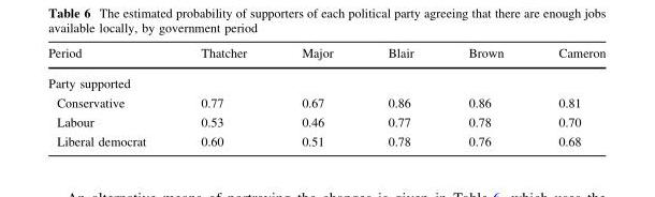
<table><thead><tr><td>Period</td><td>Thatcher</td><td>Major</td><td>Blair</td><td>Brown</td><td>Cameron</td></tr></thead><tbody><tr><td colspan="6">Party supported</td></tr><tr><td>Conservative</td><td>0.77</td><td>0.67</td><td>0.86</td><td>0.86</td><td>0.81</td></tr><tr><td>Labour</td><td>0.53</td><td>0.46</td><td>0.77</td><td>0.78</td><td>0.70</td></tr><tr><td>Liberal democrat</td><td>0.60</td><td>0.51</td><td>0.78</td><td>0.76</td><td>0.68</td></tr></tbody></table>